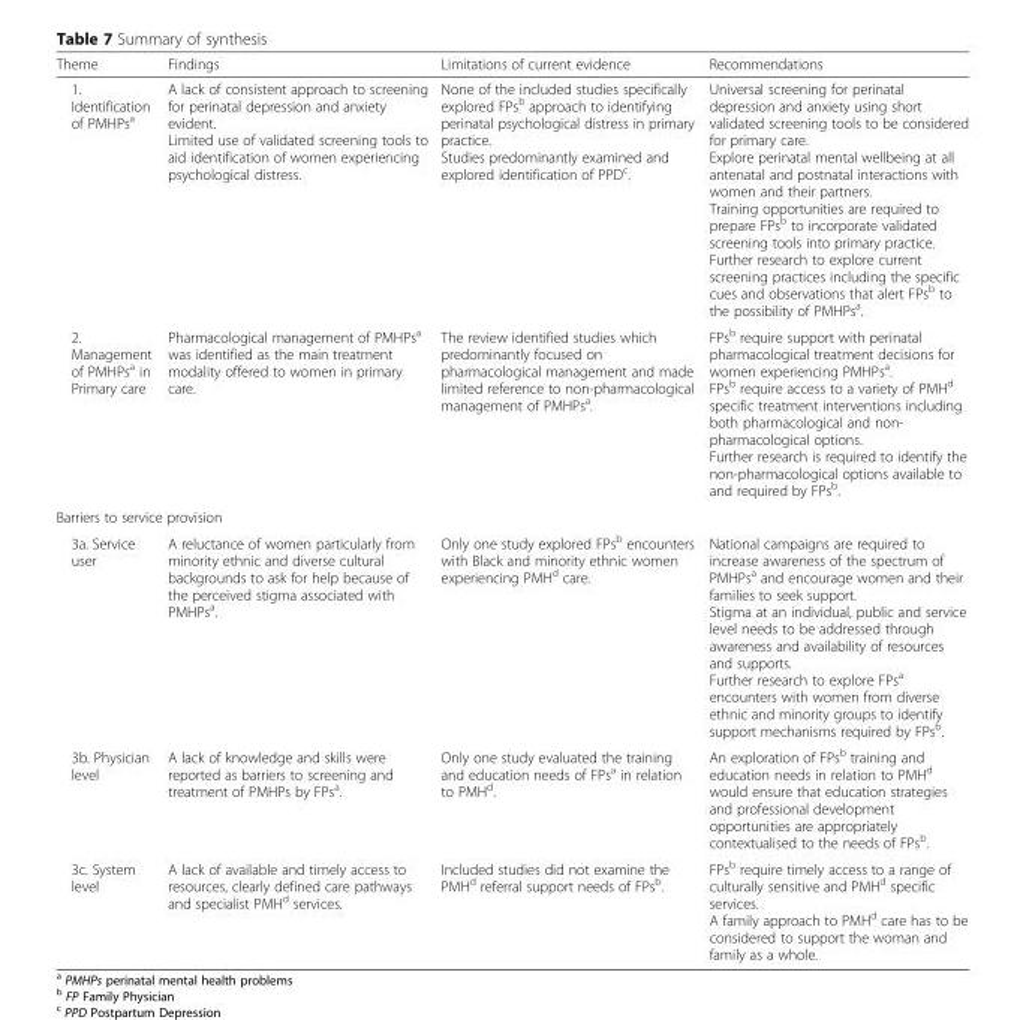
<table><thead><tr><td>Theme</td><td>Findings</td><td>Limitations of current evidence</td><td>Recommendations</td></tr></thead><tbody><tr><td>1. Identification of PMHPs<sup>a</sup></td><td>A lack of consistent approach to screening for perinatal depression and anxiety evident. Limited use of validated screening tools to aid identification of women experiencing psychological distress.</td><td>None of the included studies specifically explored FPs<sup>b</sup> approach to identifying perinatal psychological distress in primary practice. Studies predominantly examined and explored identification of PPD<sup>c</sup>.</td><td>Universal screening for perinatal depression and anxiety using short validated screening tools to be considered for primary care. Explore perinatal mental wellbeing at all antenatal and postnatal interactions with women and their partners. Training opportunities are required to prepare FPs<sup>b</sup> to incorporate validated screening tools into primary practice. Further research to explore current screening practices including the specific cues and observations that alert FPs<sup>b</sup> to the possibility of PMHPs<sup>a</sup>.</td></tr><tr><td>2. Management of PMHPs<sup>a</sup> in Primary care</td><td>Pharmacological management of PMHPs<sup>a</sup> was identified as the main treatment modality offered to women in primary care.</td><td>The review identified studies which predominantly focused on pharmacological management and made limited reference to non-pharmacological management of PMHPs<sup>a</sup>.</td><td>FPs<sup>b</sup> require support with perinatal pharmacological treatment decisions for women experiencing PMHPs<sup>a</sup>. FPs<sup>b</sup> require access to a variety of PMH<sup>d</sup> specific treatment interventions including both pharmacological and non- pharmacological options. Further research is required to identify the non-pharmacological options available to and required by FPs<sup>b</sup>.</td></tr><tr><td colspan="4">Barriers to service provision</td></tr><tr><td>3a. Service user</td><td>A reluctance of women particularly from minority ethnic and diverse cultural backgrounds to ask for help because of the perceived stigma associated with PMHPs<sup>a</sup>.</td><td>Only one study explored FPs<sup>b</sup> encounters with Black and minority ethnic women experiencing PMH<sup>d</sup> care.</td><td>National campaigns are required to increase awareness of the spectrum of PMHPs<sup>a</sup> and encourage women and their families to seek support. Stigma at an individual, public and service level needs to be addressed through awareness and availability of resources and supports. Further research to explore FPs<sup>a</sup> encounters with women from diverse ethnic and minority groups to identify support mechanisms required by FPs<sup>b</sup>.</td></tr><tr><td>3b. Physician level</td><td>A lack of knowledge and skills were reported as barriers to screening and treatment of PMHPs by FPs<sup>a</sup>.</td><td>Only one study evaluated the training and education needs of FPs<sup>a</sup> in relation to PMH<sup>d</sup>.</td><td>An exploration of FPs<sup>b</sup> training and education needs in relation to PMH<sup>d</sup> would ensure that education strategies and professional development opportunities are appropriately contextualised to the needs of FPs<sup>b</sup>.</td></tr><tr><td>3c. System level</td><td>A lack of available and timely access to resources, clearly defined care pathways and specialist PMH<sup>d</sup> services.</td><td>Included studies did not examine the PMH<sup>d</sup> referral support needs of FPs<sup>b</sup>.</td><td>FPs<sup>b</sup> require timely access to a range of culturally sensitive and PMH<sup>d</sup> specific services. A family approach to PMH<sup>d</sup> care has to be considered to support the woman and family as a whole.</td></tr></tbody></table>